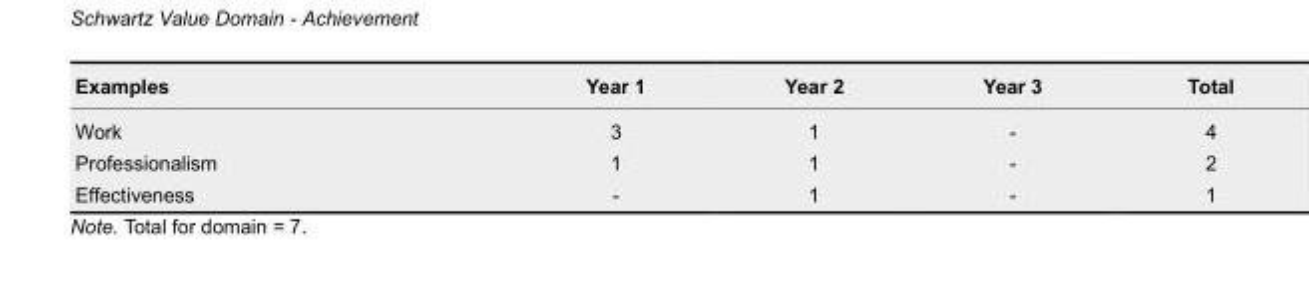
<table><thead><tr><td>Examples</td><td>Year 1</td><td>Year 2</td><td>Year 3</td><td>Total</td></tr></thead><tbody><tr><td>Work</td><td>3</td><td>1</td><td>-</td><td>4</td></tr><tr><td>Professionalism</td><td>1</td><td>1</td><td>-</td><td>2</td></tr><tr><td>Effectiveness</td><td>-</td><td>1</td><td>-</td><td>1</td></tr></tbody></table>